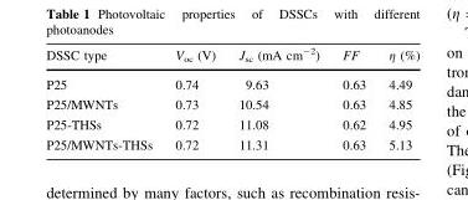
<table><thead><tr><td>DSSC type</td><td>V<sub>oc</sub> (V)</td><td>J<sub>sc</sub> (mA cm<sup>-2</sup>)</td><td>FF</td><td>η (%)</td></tr></thead><tbody><tr><td>P25</td><td>0.74</td><td>9.63</td><td>0.63</td><td>4.49</td></tr><tr><td>P25/MWNTs</td><td>0.73</td><td>10.54</td><td>0.63</td><td>4.85</td></tr><tr><td>P25-THSs</td><td>0.72</td><td>11.08</td><td>0.62</td><td>4.95</td></tr><tr><td>P25/MWNTs-THSs</td><td>0.72</td><td>11.31</td><td>0.63</td><td>5.13</td></tr></tbody></table>